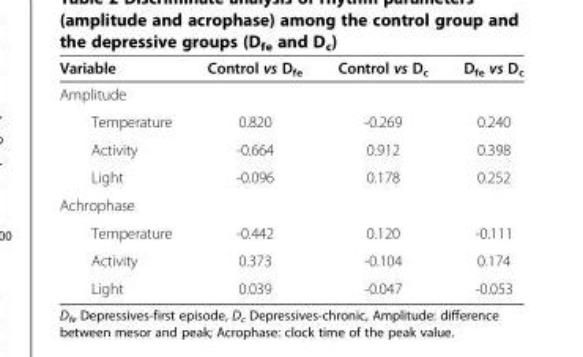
<table><thead><tr><td>Variable</td><td>Control vs D<sub>fe</sub></td><td>Control vs D<sub>c</sub></td><td>D<sub>fe</sub> vs D<sub>c</sub></td></tr></thead><tbody><tr><td colspan="4">Amplitude</td></tr><tr><td>Temperature</td><td>0.820</td><td>-0.269</td><td>0.240</td></tr><tr><td>Activity</td><td>-0.664</td><td>0.912</td><td>0.398</td></tr><tr><td>Light</td><td>-0.096</td><td>0.178</td><td>0.252</td></tr><tr><td colspan="4">Achrophase</td></tr><tr><td>Temperature</td><td>-0.442</td><td>0.120</td><td>-0.111</td></tr><tr><td>Activity</td><td>0.373</td><td>-0.104</td><td>0.174</td></tr><tr><td>Light</td><td>0.039</td><td>-0.047</td><td>-0.053</td></tr></tbody></table>